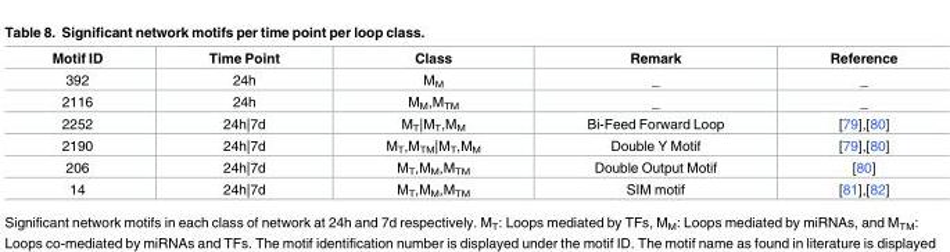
<table><thead><tr><td>Motif ID</td><td>Time Point</td><td>Class</td><td>Remark</td><td>Reference</td></tr></thead><tbody><tr><td>392</td><td>24h</td><td>M<sub>M</sub></td><td>_</td><td>_</td></tr><tr><td>2116</td><td>24h</td><td>M<sub>M</sub>,M<sub>TM</sub></td><td>_</td><td>_</td></tr><tr><td>2252</td><td>24h|7d</td><td>M<sub>T</sub>|M<sub>T</sub>,M<sub>M</sub></td><td>Bi-Feed Forward Loop</td><td>[79],[80]</td></tr><tr><td>2190</td><td>24h|7d</td><td>M<sub>T</sub>,M<sub>TM</sub>|M<sub>T</sub>,M<sub>M</sub></td><td>Double Y Motif</td><td>[79],[80]</td></tr><tr><td>206</td><td>24h|7d</td><td>M<sub>T</sub>,M<sub>M</sub>,M<sub>TM</sub></td><td>Double Output Motif</td><td>[80]</td></tr><tr><td>14</td><td>24h|7d</td><td>M<sub>T</sub>,M<sub>M</sub>,M<sub>TM</sub></td><td>SIM motif</td><td>[81],[82]</td></tr></tbody></table>